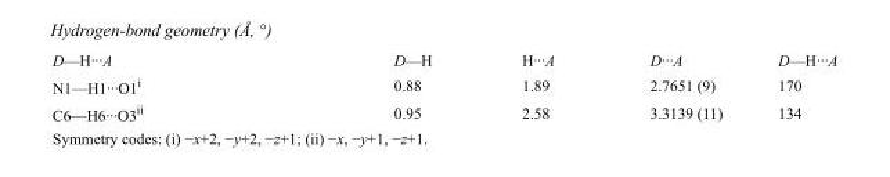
<table><tbody><tr><td>D—H···A</td><td>D—H</td><td>H···A</td><td>D···A</td><td>D—H···A</td></tr><tr><td>N1—H1···O1<sup>i</sup></td><td>0.88</td><td>1.89</td><td>2.7651 (9)</td><td>170</td></tr><tr><td>C6—H6···O3<sup>ii</sup></td><td>0.95</td><td>2.58</td><td>3.3139 (11)</td><td>134</td></tr></tbody></table>